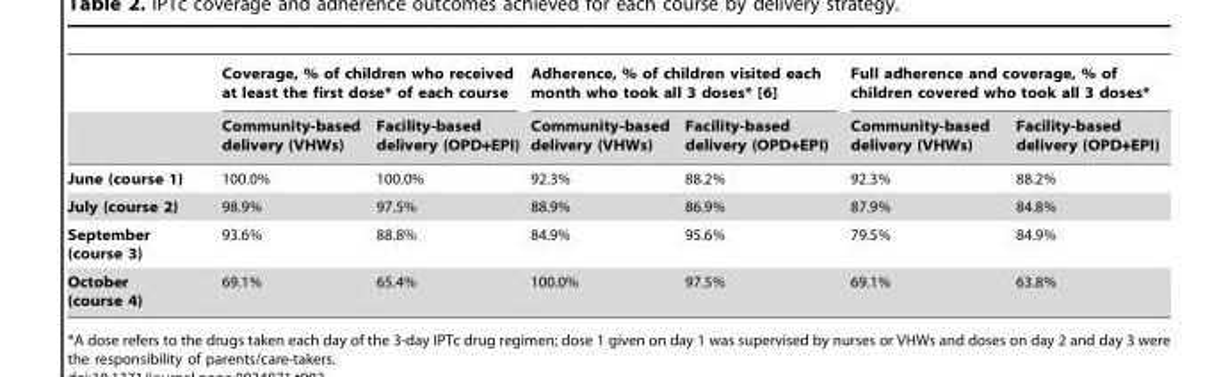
<table><thead><tr><td rowspan="2"></td><td colspan="2">Coverage, % of children who received at least the first dose* of each course</td><td colspan="2">Adherence, % of children visited each month who took all 3 doses* [6]</td><td colspan="2">Full adherence and coverage, % of children covered who took all 3 doses*</td></tr><tr><td>Community-based delivery (VHWs)</td><td>Facility-based delivery (OPD+EPI)</td><td>Community-based delivery (VHWs)</td><td>Facility-based delivery (OPD+EPI)</td><td>Community-based delivery (VHWs)</td><td>Facility-based delivery (OPD+EPI)</td></tr></thead><tbody><tr><td>June (course 1)</td><td>100.0%</td><td>100.0%</td><td>92.3%</td><td>88.2%</td><td>92.3%</td><td>88.2%</td></tr><tr><td>July (course 2)</td><td>98.9%</td><td>97.5%</td><td>88.9%</td><td>86.9%</td><td>87.9%</td><td>84.8%</td></tr><tr><td>September (course 3)</td><td>93.6%</td><td>88.8%</td><td>84.9%</td><td>95.6%</td><td>79.5%</td><td>84.9%</td></tr><tr><td>October (course 4)</td><td>69.1%</td><td>65.4%</td><td>100.0%</td><td>97.5%</td><td>69.1%</td><td>63.8%</td></tr></tbody></table>